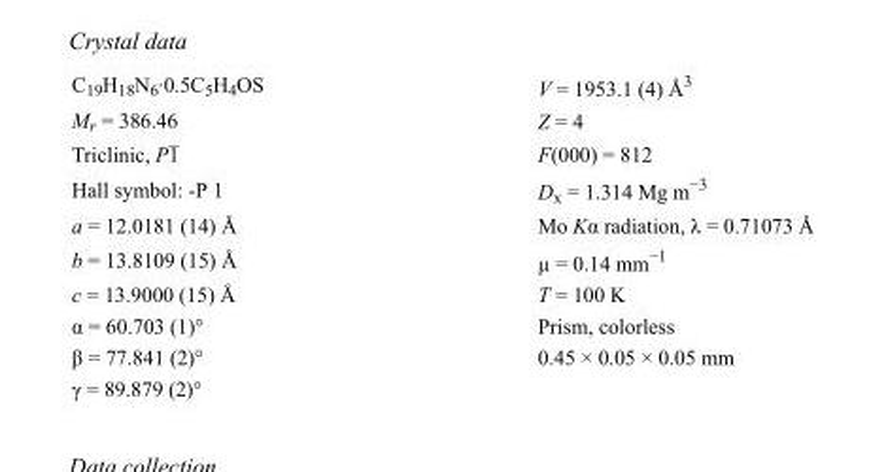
<table><tbody><tr><td>C<sub>19</sub>H<sub>18</sub>N<sub>6</sub>·0.5C<sub>5</sub>H<sub>4</sub>OS</td><td>V = 1953.1 (4) Å<sup>3</sup></td></tr><tr><td>M<sub>r</sub> = 386.46</td><td>Z = 4</td></tr><tr><td>Triclinic, P1</td><td>F(000) = 812</td></tr><tr><td>Hall symbol: -P 1</td><td>D<sub>x</sub> = 1.314 Mg m<sup>−3</sup></td></tr><tr><td>a = 12.0181 (14) Å</td><td>Mo Kα radiation, λ = 0.71073 Å</td></tr><tr><td>b = 13.8109 (15) Å</td><td>µ = 0.14 mm<sup>−1</sup></td></tr><tr><td>c = 13.9000 (15) Å</td><td>T = 100 K</td></tr><tr><td>α = 60.703 (1)°</td><td>Prism, colorless</td></tr><tr><td>β = 77.841 (2)°</td><td>0.45 × 0.05 × 0.05 mm</td></tr><tr><td>γ = 89.879 (2)°</td><td></td></tr></tbody></table>